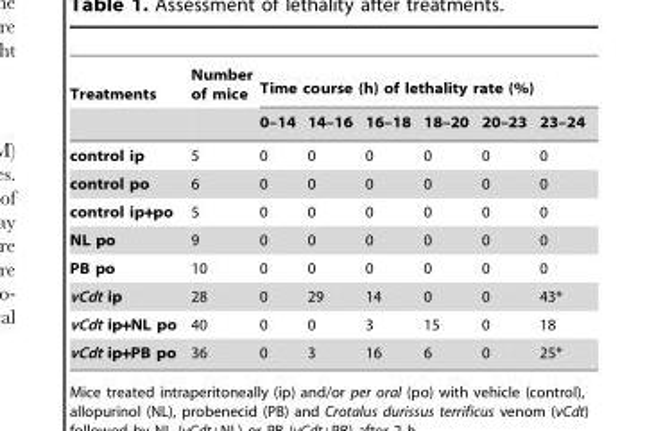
<table><thead><tr><td rowspan="2">Treatments</td><td rowspan="2">Number of mice</td><td colspan="6">Time course (h) of lethality rate (%)</td></tr><tr><td>0–14</td><td>14–16</td><td>16–18</td><td>18–20</td><td>20–23</td><td>23–24</td></tr></thead><tbody><tr><td>control ip</td><td>5</td><td>0</td><td>0</td><td>0</td><td>0</td><td>0</td><td>0</td></tr><tr><td>control po</td><td>6</td><td>0</td><td>0</td><td>0</td><td>0</td><td>0</td><td>0</td></tr><tr><td>control ip+po</td><td>5</td><td>0</td><td>0</td><td>0</td><td>0</td><td>0</td><td>0</td></tr><tr><td>NL po</td><td>9</td><td>0</td><td>0</td><td>0</td><td>0</td><td>0</td><td>0</td></tr><tr><td>PB po</td><td>10</td><td>0</td><td>0</td><td>0</td><td>0</td><td>0</td><td>0</td></tr><tr><td>vCdt ip</td><td>28</td><td>0</td><td>29</td><td>14</td><td>0</td><td>0</td><td>43*</td></tr><tr><td>vCdt ip+NL po</td><td>40</td><td>0</td><td>0</td><td>3</td><td>15</td><td>0</td><td>18</td></tr><tr><td>vCdt ip+PB po</td><td>36</td><td>0</td><td>3</td><td>16</td><td>6</td><td>0</td><td>25*</td></tr></tbody></table>